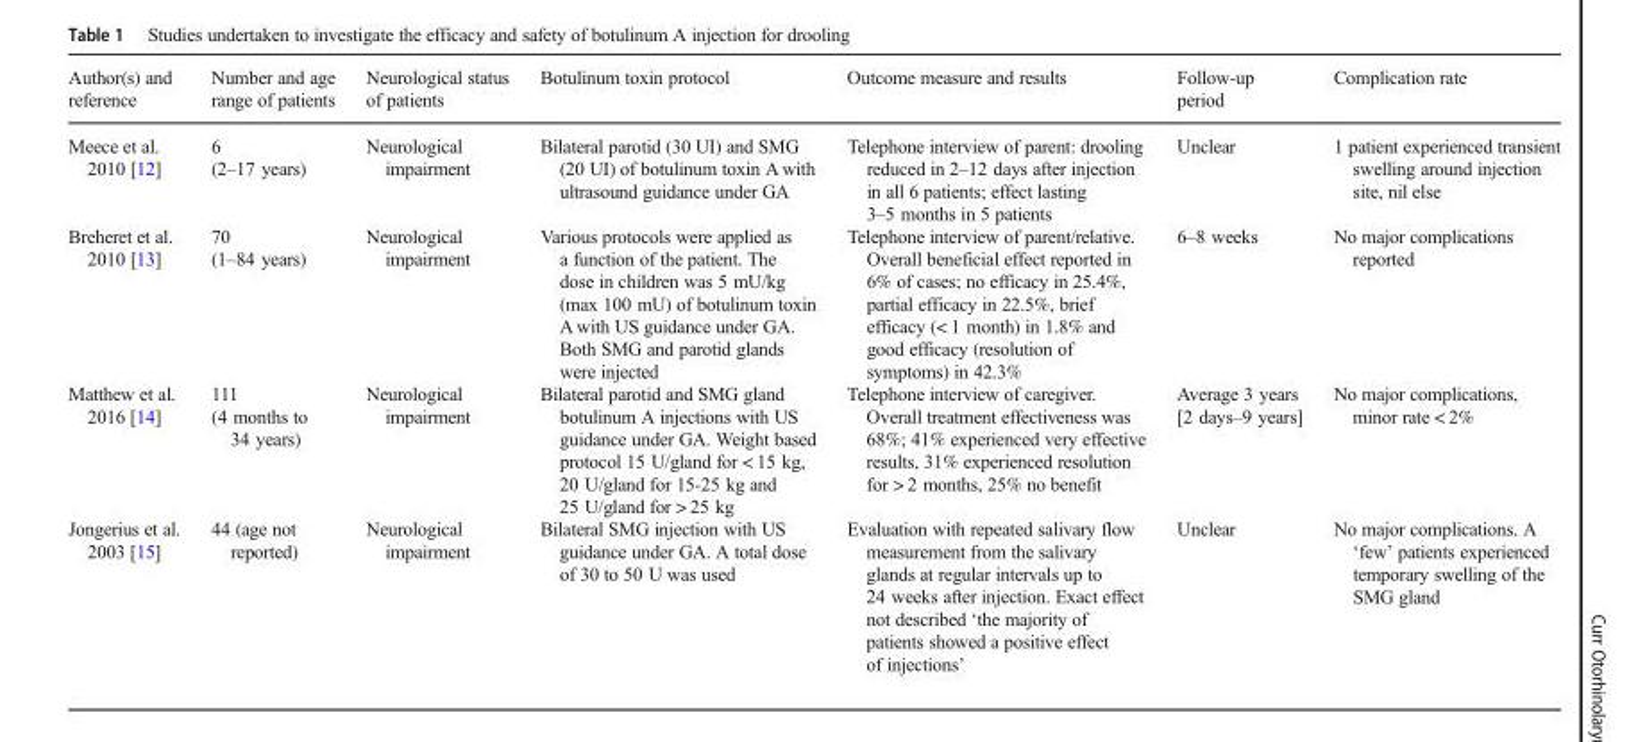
<table><thead><tr><td>Author(s) and reference</td><td>Number and age range of patients</td><td>Neurological status of patients</td><td>Botulinum toxin protocol</td><td>Outcome measure and results</td><td>Follow-up period</td><td>Complication rate</td></tr></thead><tbody><tr><td>Meece et al. 2010 [12]</td><td>6 (2–17 years)</td><td>Neurological impairment</td><td>Bilateral parotid (30 UI) and SMG (20 UI) of botulinum toxin A with ultrasound guidance under GA</td><td>Telephone interview of parent: drooling reduced in 2–12 days after injection in all 6 patients; effect lasting 3–5 months in 5 patients</td><td>Unclear</td><td>1 patient experienced transient swelling around injection site, nil else</td></tr><tr><td>Breheret et al. 2010 [13]</td><td>70 (1–84 years)</td><td>Neurological impairment</td><td>Various protocols were applied as a function of the patient. The dose in children was 5 mU/kg (max 100 mU) of botulinum toxin A with US guidance under GA. Both SMG and parotid glands were injected</td><td>Telephone interview of parent/relative. Overall beneficial effect reported in 6% of cases; no efficacy in 25.4%, partial efficacy in 22.5%, brief efficacy (&lt; 1 month) in 1.8% and good efficacy (resolution of symptoms) in 42.3%</td><td>6–8 weeks</td><td>No major complications reported</td></tr><tr><td>Matthew et al. 2016 [14]</td><td>111 (4 months to 34 years)</td><td>Neurological impairment</td><td>Bilateral parotid and SMG gland botulinum A injections with US guidance under GA. Weight based protocol 15 U/gland for &lt; 15 kg, 20 U/gland for 15-25 kg and 25 U/gland for &gt; 25 kg</td><td>Telephone interview of caregiver. Overall treatment effectiveness was 68%; 41% experienced very effective results, 31% experienced resolution for &gt; 2 months, 25% no benefit</td><td>Average 3 years [2 days–9 years]</td><td>No major complications, minor rate &lt; 2%</td></tr><tr><td>Jongerius et al. 2003 [15]</td><td>44 (age not reported)</td><td>Neurological impairment</td><td>Bilateral SMG injection with US guidance under GA. A total dose of 30 to 50 U was used</td><td>Evaluation with repeated salivary flow measurement from the salivary glands at regular intervals up to 24 weeks after injection. Exact effect not described ‘the majority of patients showed a positive effect of injections’</td><td>Unclear</td><td>No major complications. A ‘few’ patients experienced temporary swelling of the SMG gland</td></tr></tbody></table>